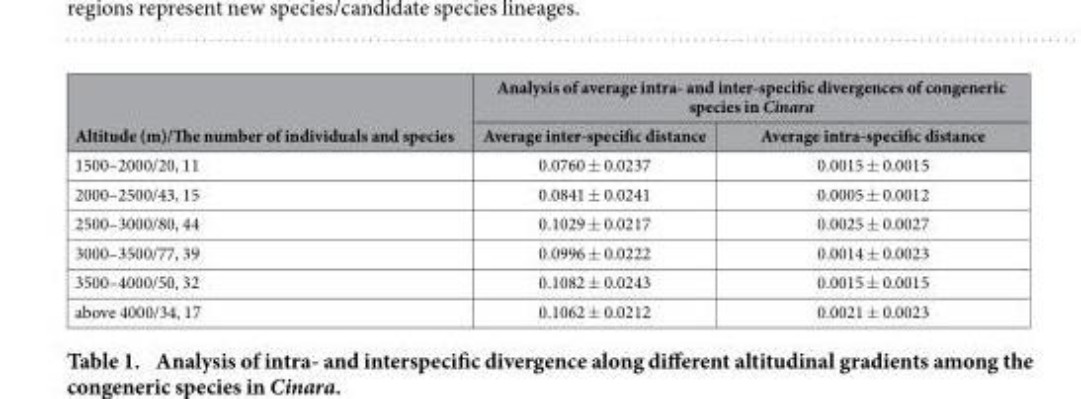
<table><thead><tr><td rowspan="2">Altitude (m)/The number of individuals and species</td><td colspan="2">Analysis of average intra- and inter-specific divergences of congeneric species in Cinara</td></tr><tr><td>Average inter-specific distance</td><td>Average intra-specific distance</td></tr></thead><tbody><tr><td>1500–2000/20, 11</td><td>0.0760 ± 0.0237</td><td>0.0015 ± 0.0015</td></tr><tr><td>2000–2500/43, 15</td><td>0.0841 ± 0.0241</td><td>0.0005 ± 0.0012</td></tr><tr><td>2500–3000/80, 44</td><td>0.1029 ± 0.0217</td><td>0.0025 ± 0.0027</td></tr><tr><td>3000–3500/77, 39</td><td>0.0996 ± 0.0222</td><td>0.0014 ± 0.0023</td></tr><tr><td>3500–4000/50, 32</td><td>0.1082 ± 0.0243</td><td>0.0015 ± 0.0015</td></tr><tr><td>above 4000/34, 17</td><td>0.1062 ± 0.0212</td><td>0.0021 ± 0.0023</td></tr></tbody></table>